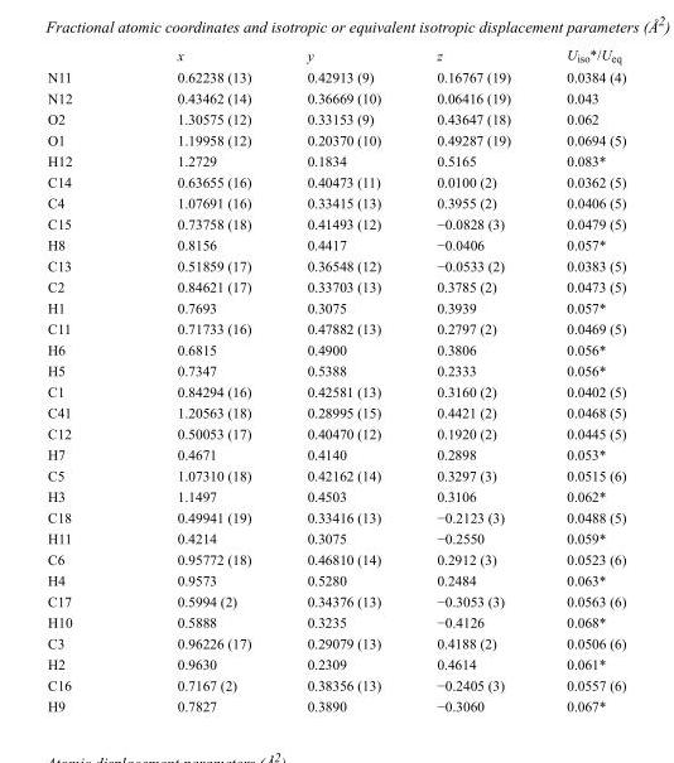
<table><thead><tr><td></td><td>x</td><td>y</td><td>z</td><td>U<sub>iso</sub>*/U<sub>eq</sub></td></tr></thead><tbody><tr><td>N11</td><td>0.62238 (13)</td><td>0.42913 (9)</td><td>0.16767 (19)</td><td>0.0384 (4)</td></tr><tr><td>N12</td><td>0.43462 (14)</td><td>0.36669 (10)</td><td>0.06416 (19)</td><td>0.043</td></tr><tr><td>O2</td><td>1.30575 (12)</td><td>0.33153 (9)</td><td>0.43647 (18)</td><td>0.062</td></tr><tr><td>O1</td><td>1.19958 (12)</td><td>0.20370 (10)</td><td>0.49287 (19)</td><td>0.0694 (5)</td></tr><tr><td>H12</td><td>1.2729</td><td>0.1834</td><td>0.5165</td><td>0.083*</td></tr><tr><td>C14</td><td>0.63655 (16)</td><td>0.40473 (11)</td><td>0.0100 (2)</td><td>0.0362 (5)</td></tr><tr><td>C4</td><td>1.07691 (16)</td><td>0.33415 (13)</td><td>0.3955 (2)</td><td>0.0406 (5)</td></tr><tr><td>C15</td><td>0.73758 (18)</td><td>0.41493 (12)</td><td>−0.0828 (3)</td><td>0.0479 (5)</td></tr><tr><td>H8</td><td>0.8156</td><td>0.4417</td><td>−0.0406</td><td>0.057*</td></tr><tr><td>C13</td><td>0.51859 (17)</td><td>0.36548 (12)</td><td>−0.0533 (2)</td><td>0.0383 (5)</td></tr><tr><td>C2</td><td>0.84621 (17)</td><td>0.33703 (13)</td><td>0.3785 (2)</td><td>0.0473 (5)</td></tr><tr><td>H1</td><td>0.7693</td><td>0.3075</td><td>0.3939</td><td>0.057*</td></tr><tr><td>C11</td><td>0.71733 (16)</td><td>0.47882 (13)</td><td>0.2797 (2)</td><td>0.0469 (5)</td></tr><tr><td>H6</td><td>0.6815</td><td>0.4900</td><td>0.3806</td><td>0.056*</td></tr><tr><td>H5</td><td>0.7347</td><td>0.5388</td><td>0.2333</td><td>0.056*</td></tr><tr><td>C1</td><td>0.84294 (16)</td><td>0.42581 (13)</td><td>0.3160 (2)</td><td>0.0402 (5)</td></tr><tr><td>C41</td><td>1.20563 (18)</td><td>0.28995 (15)</td><td>0.4421 (2)</td><td>0.0468 (5)</td></tr><tr><td>C12</td><td>0.50053 (17)</td><td>0.40470 (12)</td><td>0.1920 (2)</td><td>0.0445 (5)</td></tr><tr><td>H7</td><td>0.4671</td><td>0.4140</td><td>0.2898</td><td>0.053*</td></tr><tr><td>C5</td><td>1.07310 (18)</td><td>0.42162 (14)</td><td>0.3297 (3)</td><td>0.0515 (6)</td></tr><tr><td>H3</td><td>1.1497</td><td>0.4503</td><td>0.3106</td><td>0.062*</td></tr><tr><td>C18</td><td>0.49941 (19)</td><td>0.33416 (13)</td><td>−0.2123 (3)</td><td>0.0488 (5)</td></tr><tr><td>H11</td><td>0.4214</td><td>0.3075</td><td>−0.2550</td><td>0.059*</td></tr><tr><td>C6</td><td>0.95772 (18)</td><td>0.46810 (14)</td><td>0.2912 (3)</td><td>0.0523 (6)</td></tr><tr><td>H4</td><td>0.9573</td><td>0.5280</td><td>0.2484</td><td>0.063*</td></tr><tr><td>C17</td><td>0.5994 (2)</td><td>0.34376 (13)</td><td>−0.3053 (3)</td><td>0.0563 (6)</td></tr><tr><td>H10</td><td>0.5888</td><td>0.3235</td><td>−0.4126</td><td>0.068*</td></tr><tr><td>C3</td><td>0.96226 (17)</td><td>0.29079 (13)</td><td>0.4188 (2)</td><td>0.0506 (6)</td></tr><tr><td>H2</td><td>0.9630</td><td>0.2309</td><td>0.4614</td><td>0.061*</td></tr><tr><td>C16</td><td>0.7167 (2)</td><td>0.38356 (13)</td><td>−0.2405 (3)</td><td>0.0557 (6)</td></tr><tr><td>H9</td><td>0.7827</td><td>0.3890</td><td>−0.3060</td><td>0.067*</td></tr></tbody></table>